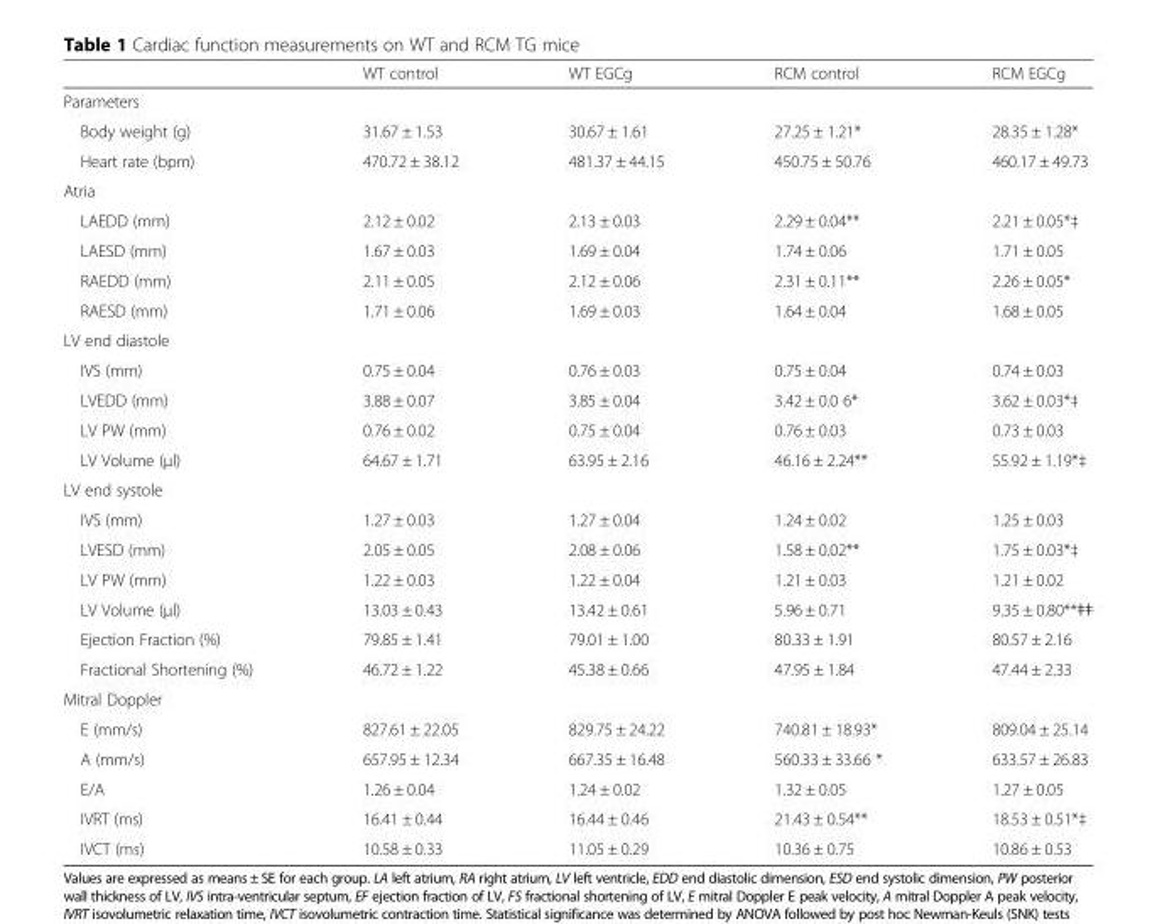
<table><thead><tr><td></td><td>WT control</td><td>WT EGCg</td><td>RCM control</td><td>RCM EGCg</td></tr></thead><tbody><tr><td colspan="5">Parameters</td></tr><tr><td>Body weight (g)</td><td>31.67 ± 1.53</td><td>30.67 ± 1.61</td><td>27.25 ± 1.21*</td><td>28.35 ± 1.28*</td></tr><tr><td>Heart rate (bpm)</td><td>470.72 ± 38.12</td><td>481.37 ± 44.15</td><td>450.75 ± 50.76</td><td>460.17 ± 49.73</td></tr><tr><td colspan="5">Atria</td></tr><tr><td>LAEDD (mm)</td><td>2.12 ± 0.02</td><td>2.13 ± 0.03</td><td>2.29 ± 0.04**</td><td>2.21 ± 0.05*‡</td></tr><tr><td>LAESD (mm)</td><td>1.67 ± 0.03</td><td>1.69 ± 0.04</td><td>1.74 ± 0.06</td><td>1.71 ± 0.05</td></tr><tr><td>RAEDD (mm)</td><td>2.11 ± 0.05</td><td>2.12 ± 0.06</td><td>2.31 ± 0.11**</td><td>2.26 ± 0.05*</td></tr><tr><td>RAESD (mm)</td><td>1.71 ± 0.06</td><td>1.69 ± 0.03</td><td>1.64 ± 0.04</td><td>1.68 ± 0.05</td></tr><tr><td colspan="5">LV end diastole</td></tr><tr><td>IVS (mm)</td><td>0.75 ± 0.04</td><td>0.76 ± 0.03</td><td>0.75 ± 0.04</td><td>0.74 ± 0.03</td></tr><tr><td>LVEDD (mm)</td><td>3.88 ± 0.07</td><td>3.85 ± 0.04</td><td>3.42 ± 0.0 6*</td><td>3.62 ± 0.03*‡</td></tr><tr><td>LV PW (mm)</td><td>0.76 ± 0.02</td><td>0.75 ± 0.04</td><td>0.76 ± 0.03</td><td>0.73 ± 0.03</td></tr><tr><td>LV Volume (μl)</td><td>64.67 ± 1.71</td><td>63.95 ± 2.16</td><td>46.16 ± 2.24**</td><td>55.92 ± 1.19*‡</td></tr><tr><td colspan="5">LV end systole</td></tr><tr><td>IVS (mm)</td><td>1.27 ± 0.03</td><td>1.27 ± 0.04</td><td>1.24 ± 0.02</td><td>1.25 ± 0.03</td></tr><tr><td>LVESD (mm)</td><td>2.05 ± 0.05</td><td>2.08 ± 0.06</td><td>1.58 ± 0.02**</td><td>1.75 ± 0.03*‡</td></tr><tr><td>LV PW (mm)</td><td>1.22 ± 0.03</td><td>1.22 ± 0.04</td><td>1.21 ± 0.03</td><td>1.21 ± 0.02</td></tr><tr><td>LV Volume (μl)</td><td>13.03 ± 0.43</td><td>13.42 ± 0.61</td><td>5.96 ± 0.71</td><td>9.35 ± 0.80**ǂǂ</td></tr><tr><td>Ejection Fraction (%)</td><td>79.85 ± 1.41</td><td>79.01 ± 1.00</td><td>80.33 ± 1.91</td><td>80.57 ± 2.16</td></tr><tr><td>Fractional Shortening (%)</td><td>46.72 ± 1.22</td><td>45.38 ± 0.66</td><td>47.95 ± 1.84</td><td>47.44 ± 2.33</td></tr><tr><td colspan="5">Mitral Doppler</td></tr><tr><td>E (mm/s)</td><td>827.61 ± 22.05</td><td>829.75 ± 24.22</td><td>740.81 ± 18.93*</td><td>809.04 ± 25.14</td></tr><tr><td>A (mm/s)</td><td>657.95 ± 12.34</td><td>667.35 ± 16.48</td><td>560.33 ± 33.66 *</td><td>633.57 ± 26.83</td></tr><tr><td>E/A</td><td>1.26 ± 0.04</td><td>1.24 ± 0.02</td><td>1.32 ± 0.05</td><td>1.27 ± 0.05</td></tr><tr><td>IVRT (ms)</td><td>16.41 ± 0.44</td><td>16.44 ± 0.46</td><td>21.43 ± 0.54**</td><td>18.53 ± 0.51*‡</td></tr><tr><td>IVCT (ms)</td><td>10.58 ± 0.33</td><td>11.05 ± 0.29</td><td>10.36 ± 0.75</td><td>10.86 ± 0.53</td></tr></tbody></table>